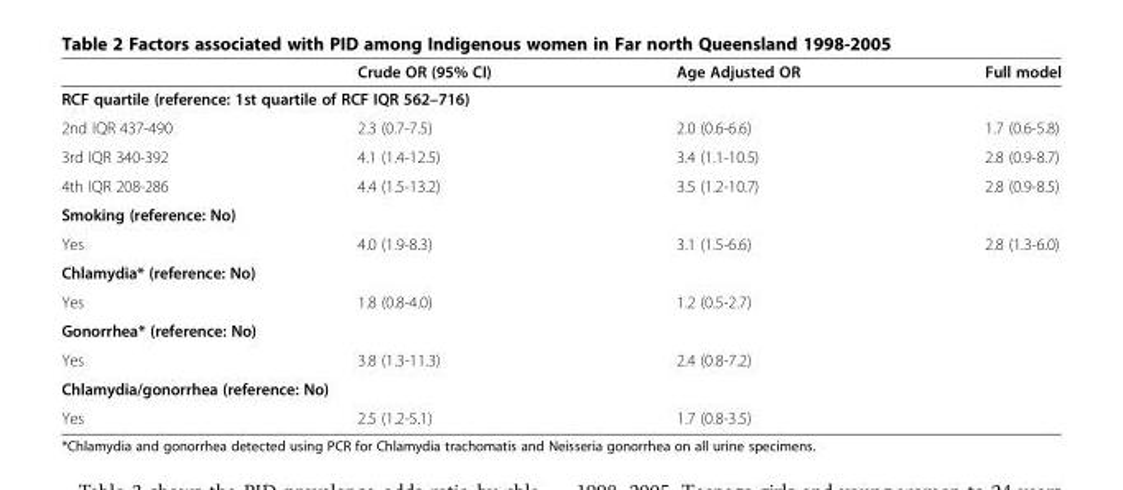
<table><thead><tr><td></td><td>Crude OR (95% CI)</td><td>Age Adjusted OR</td><td>Full model</td></tr></thead><tbody><tr><td colspan="4">RCF quartile (reference: 1st quartile of RCF IQR 562–716)</td></tr><tr><td>2nd IQR 437-490</td><td>2.3 (0.7-7.5)</td><td>2.0 (0.6-6.6)</td><td>1.7 (0.6-5.8)</td></tr><tr><td>3rd IQR 340-392</td><td>4.1 (1.4-12.5)</td><td>3.4 (1.1-10.5)</td><td>2.8 (0.9-8.7)</td></tr><tr><td>4th IQR 208-286</td><td>4.4 (1.5-13.2)</td><td>3.5 (1.2-10.7)</td><td>2.8 (0.9-8.5)</td></tr><tr><td colspan="4">Smoking (reference: No)</td></tr><tr><td>Yes</td><td>4.0 (1.9-8.3)</td><td>3.1 (1.5-6.6)</td><td>2.8 (1.3-6.0)</td></tr><tr><td colspan="4">Chlamydia* (reference: No)</td></tr><tr><td>Yes</td><td>1.8 (0.8-4.0)</td><td>1.2 (0.5-2.7)</td><td></td></tr><tr><td colspan="4">Gonorrhea* (reference: No)</td></tr><tr><td>Yes</td><td>3.8 (1.3-11.3)</td><td>2.4 (0.8-7.2)</td><td></td></tr><tr><td colspan="4">Chlamydia/gonorrhea (reference: No)</td></tr><tr><td>Yes</td><td>2.5 (1.2-5.1)</td><td>1.7 (0.8-3.5)</td><td></td></tr></tbody></table>